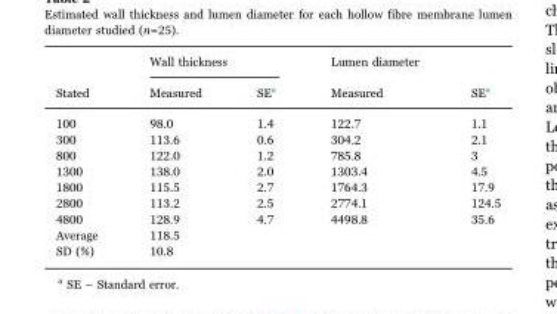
<table><thead><tr><td rowspan="2">Stated</td><td colspan="2">Wall thickness</td><td rowspan="2">Lumen diameter Measured</td><td rowspan="2">SE<sup>a</sup></td></tr><tr><td>Measured</td><td>SE<sup>a</sup></td></tr></thead><tbody><tr><td>100</td><td>98.0</td><td>1.4</td><td>122.7</td><td>1.1</td></tr><tr><td>300</td><td>113.6</td><td>0.6</td><td>304.2</td><td>2.1</td></tr><tr><td>800</td><td>122.0</td><td>1.2</td><td>785.8</td><td>3</td></tr><tr><td>1300</td><td>138.0</td><td>2.0</td><td>1303.4</td><td>4.5</td></tr><tr><td>1800</td><td>115.5</td><td>2.7</td><td>1764.3</td><td>17.9</td></tr><tr><td>2800</td><td>113.2</td><td>2.5</td><td>2774.1</td><td>124.5</td></tr><tr><td>4800</td><td>128.9</td><td>4.7</td><td>4498.8</td><td>35.6</td></tr><tr><td>Average</td><td>118.5</td><td></td><td></td><td></td></tr><tr><td>SD (%)</td><td>10.8</td><td></td><td></td><td></td></tr></tbody></table>